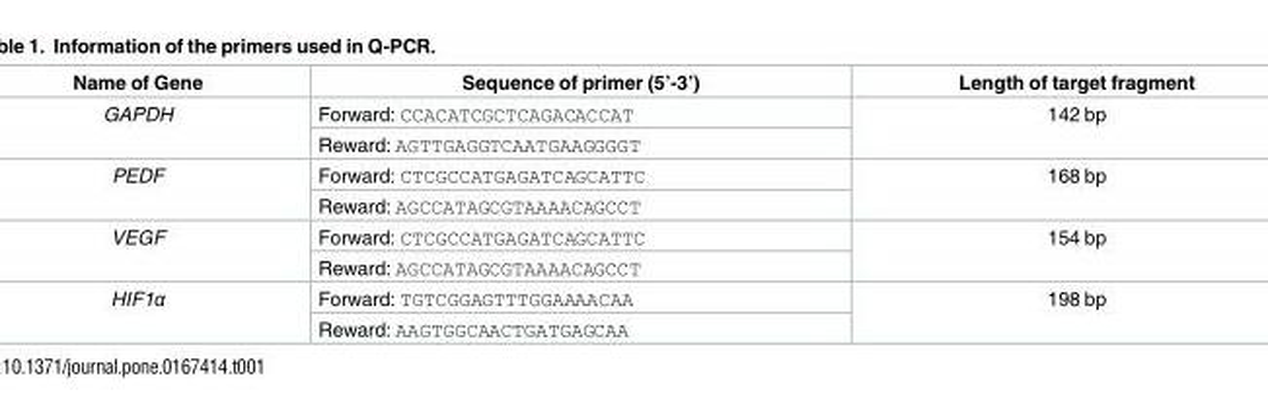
<table><thead><tr><td>Name of Gene</td><td>Sequence of primer (5’-3’)</td><td>Length of target fragment</td></tr></thead><tbody><tr><td rowspan="2">GAPDH</td><td>Forward: CCACATCGCTCAGACACCAT</td><td rowspan="2">142 bp</td></tr><tr><td>Reward: AGTTGAGGTCAATGAAGGGGT</td></tr><tr><td rowspan="2">PEDF</td><td>Forward: CTCGCCATGAGATCAGCATTC</td><td rowspan="2">168 bp</td></tr><tr><td>Reward: AGCCATAGCGTAAAACAGCCT</td></tr><tr><td rowspan="2">VEGF</td><td>Forward: CTCGCCATGAGATCAGCATTC</td><td rowspan="2">154 bp</td></tr><tr><td>Reward: AGCCATAGCGTAAAACAGCCT</td></tr><tr><td rowspan="2">HIF1α</td><td>Forward: TGTCGGAGTTTGGAAAACAA</td><td rowspan="2">198 bp</td></tr><tr><td>Reward: AAGTGGCAACTGATGAGCAA</td></tr></tbody></table>